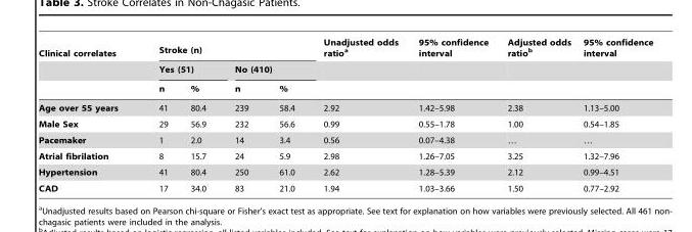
<table><thead><tr><td rowspan="3">Clinical correlates</td><td colspan="4">Stroke (n)</td><td rowspan="3">Unadjusted odds ratio<sup>a</sup></td><td rowspan="3">95% confidence interval</td><td rowspan="3">Adjusted odds ratio<sup>b</sup></td><td rowspan="3">95% confidence interval</td></tr><tr><td colspan="2">Yes (51)</td><td colspan="2">No (410)</td></tr><tr><td>n</td><td>%</td><td>n</td><td>%</td></tr></thead><tbody><tr><td>Age over 55 years</td><td>41</td><td>80.4</td><td>239</td><td>58.4</td><td>2.92</td><td>1.42–5.98</td><td>2.38</td><td>1.13–5.00</td></tr><tr><td>Male Sex</td><td>29</td><td>56.9</td><td>232</td><td>56.6</td><td>0.99</td><td>0.55–1.78</td><td>1.00</td><td>0.54–1.85</td></tr><tr><td>Pacemaker</td><td>1</td><td>2.0</td><td>14</td><td>3.4</td><td>0.56</td><td>0.07–4.38</td><td>…</td><td>…</td></tr><tr><td>Atrial fibrilation</td><td>8</td><td>15.7</td><td>24</td><td>5.9</td><td>2.98</td><td>1.26–7.05</td><td>3.25</td><td>1.32–7.96</td></tr><tr><td>Hypertension</td><td>41</td><td>80.4</td><td>250</td><td>61.0</td><td>2.62</td><td>1.28–5.39</td><td>2.12</td><td>0.99–4.51</td></tr><tr><td>CAD</td><td>17</td><td>34.0</td><td>83</td><td>21.0</td><td>1.94</td><td>1.03–3.66</td><td>1.50</td><td>0.77–2.92</td></tr></tbody></table>